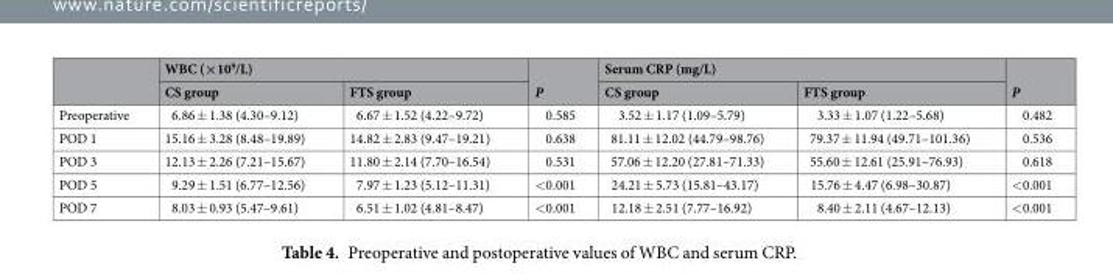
<table><thead><tr><td rowspan="2"></td><td colspan="2">WBC (×10<sup>9</sup>/L)</td><td rowspan="2">P</td><td colspan="2">Serum CRP (mg/L)</td><td rowspan="2">P</td></tr><tr><td>CS group</td><td>FTS group</td><td>CS group</td><td>FTS group</td></tr></thead><tbody><tr><td>Preoperative</td><td>6.86 ± 1.38 (4.30–9.12)</td><td>6.67 ± 1.52 (4.22–9.72)</td><td>0.585</td><td>3.52 ± 1.17 (1.09–5.79)</td><td>3.33 ± 1.07 (1.22–5.68)</td><td>0.482</td></tr><tr><td>POD 1</td><td>15.16 ± 3.28 (8.48–19.89)</td><td>14.82 ± 2.83 (9.47–19.21)</td><td>0.638</td><td>81.11 ± 12.02 (44.79–98.76)</td><td>79.37 ± 11.94 (49.71–101.36)</td><td>0.536</td></tr><tr><td>POD 3</td><td>12.13 ± 2.26 (7.21–15.67)</td><td>11.80 ± 2.14 (7.70–16.54)</td><td>0.531</td><td>57.06 ± 12.20 (27.81–71.33)</td><td>55.60 ± 12.61 (25.91–76.93)</td><td>0.618</td></tr><tr><td>POD 5</td><td>9.29 ± 1.51 (6.77–12.56)</td><td>7.97 ± 1.23 (5.12–11.31)</td><td>&lt;0.001</td><td>24.21 ± 5.73 (15.81–43.17)</td><td>15.76 ± 4.47 (6.98–30.87)</td><td>&lt;0.001</td></tr><tr><td>POD 7</td><td>8.03 ± 0.93 (5.47–9.61)</td><td>6.51 ± 1.02 (4.81–8.47)</td><td>&lt;0.001</td><td>12.18 ± 2.51 (7.77–16.92)</td><td>8.40 ± 2.11 (4.67–12.13)</td><td>&lt;0.001</td></tr></tbody></table>